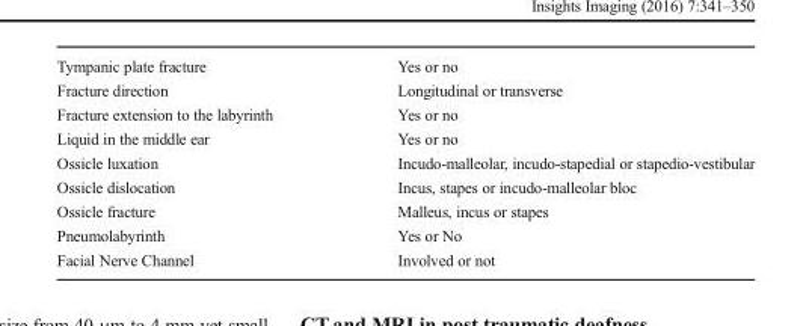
<table><tbody><tr><td>Tympanic plate fracture</td><td>Yes or no</td></tr><tr><td>Fracture direction</td><td>Longitudinal or transverse</td></tr><tr><td>Fracture extension to the labyrinth</td><td>Yes or no</td></tr><tr><td>Liquid in the middle ear</td><td>Yes or no</td></tr><tr><td>Ossicle luxation</td><td>Incudo-malleolar, incudo-stapedial or stapedio-vestibular</td></tr><tr><td>Ossicle dislocation</td><td>Incus, stapes or incudo-malleolar bloc</td></tr><tr><td>Ossicle fracture</td><td>Malleus, incus or stapes</td></tr><tr><td>Pneumolabyrinth</td><td>Yes or No</td></tr><tr><td>Facial Nerve Channel</td><td>Involved or not</td></tr></tbody></table>